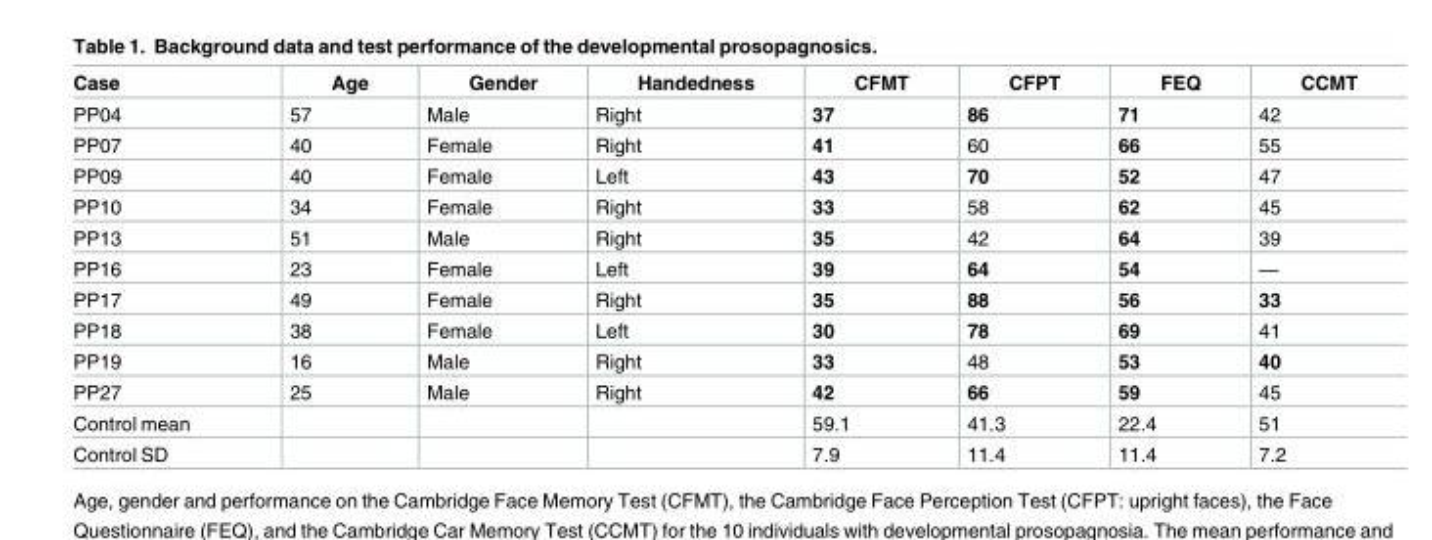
<table><thead><tr><td>Case</td><td>Age</td><td>Gender</td><td>Handedness</td><td>CFMT</td><td>CFPT</td><td>FEQ</td><td>CCMT</td></tr></thead><tbody><tr><td>PP04</td><td>57</td><td>Male</td><td>Right</td><td>37</td><td>86</td><td>71</td><td>42</td></tr><tr><td>PP07</td><td>40</td><td>Female</td><td>Right</td><td>41</td><td>60</td><td>66</td><td>55</td></tr><tr><td>PP09</td><td>40</td><td>Female</td><td>Left</td><td>43</td><td>70</td><td>52</td><td>47</td></tr><tr><td>PP10</td><td>34</td><td>Female</td><td>Right</td><td>33</td><td>58</td><td>62</td><td>45</td></tr><tr><td>PP13</td><td>51</td><td>Male</td><td>Right</td><td>35</td><td>42</td><td>64</td><td>39</td></tr><tr><td>PP16</td><td>23</td><td>Female</td><td>Left</td><td>39</td><td>64</td><td>54</td><td>—</td></tr><tr><td>PP17</td><td>49</td><td>Female</td><td>Right</td><td>35</td><td>88</td><td>56</td><td>33</td></tr><tr><td>PP18</td><td>38</td><td>Female</td><td>Left</td><td>30</td><td>78</td><td>69</td><td>41</td></tr><tr><td>PP19</td><td>16</td><td>Male</td><td>Right</td><td>33</td><td>48</td><td>53</td><td>40</td></tr><tr><td>PP27</td><td>25</td><td>Male</td><td>Right</td><td>42</td><td>66</td><td>59</td><td>45</td></tr><tr><td>Control mean</td><td></td><td></td><td></td><td>59.1</td><td>41.3</td><td>22.4</td><td>51</td></tr><tr><td>Control SD</td><td></td><td></td><td></td><td>7.9</td><td>11.4</td><td>11.4</td><td>7.2</td></tr></tbody></table>